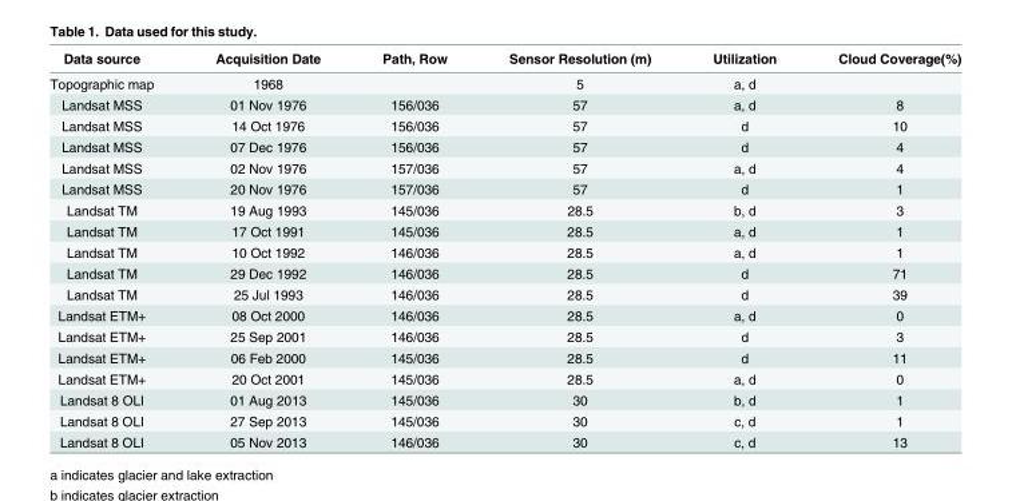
<table><thead><tr><td>Data source</td><td>Acquisition Date</td><td>Path, Row</td><td>Sensor Resolution (m)</td><td>Utilization</td><td>Cloud Coverage(%)</td></tr></thead><tbody><tr><td>Topographic map</td><td>1968</td><td></td><td>5</td><td>a, d</td><td></td></tr><tr><td>Landsat MSS</td><td>01 Nov 1976</td><td>156/036</td><td>57</td><td>a, d</td><td>8</td></tr><tr><td>Landsat MSS</td><td>14 Oct 1976</td><td>156/036</td><td>57</td><td>d</td><td>10</td></tr><tr><td>Landsat MSS</td><td>07 Dec 1976</td><td>156/036</td><td>57</td><td>d</td><td>4</td></tr><tr><td>Landsat MSS</td><td>02 Nov 1976</td><td>157/036</td><td>57</td><td>a, d</td><td>4</td></tr><tr><td>Landsat MSS</td><td>20 Nov 1976</td><td>157/036</td><td>57</td><td>d</td><td>1</td></tr><tr><td>Landsat TM</td><td>19 Aug 1993</td><td>145/036</td><td>28.5</td><td>b, d</td><td>3</td></tr><tr><td>Landsat TM</td><td>17 Oct 1991</td><td>145/036</td><td>28.5</td><td>a, d</td><td>1</td></tr><tr><td>Landsat TM</td><td>10 Oct 1992</td><td>146/036</td><td>28.5</td><td>a, d</td><td>1</td></tr><tr><td>Landsat TM</td><td>29 Dec 1992</td><td>146/036</td><td>28.5</td><td>d</td><td>71</td></tr><tr><td>Landsat TM</td><td>25 Jul 1993</td><td>146/036</td><td>28.5</td><td>d</td><td>39</td></tr><tr><td>Landsat ETM+</td><td>08 Oct 2000</td><td>146/036</td><td>28.5</td><td>a, d</td><td>0</td></tr><tr><td>Landsat ETM+</td><td>25 Sep 2001</td><td>146/036</td><td>28.5</td><td>d</td><td>3</td></tr><tr><td>Landsat ETM+</td><td>06 Feb 2000</td><td>145/036</td><td>28.5</td><td>d</td><td>11</td></tr><tr><td>Landsat ETM+</td><td>20 Oct 2001</td><td>145/036</td><td>28.5</td><td>a, d</td><td>0</td></tr><tr><td>Landsat 8 OLI</td><td>01 Aug 2013</td><td>145/036</td><td>30</td><td>b, d</td><td>1</td></tr><tr><td>Landsat 8 OLI</td><td>27 Sep 2013</td><td>145/036</td><td>30</td><td>c, d</td><td>1</td></tr><tr><td>Landsat 8 OLI</td><td>05 Nov 2013</td><td>146/036</td><td>30</td><td>c, d</td><td>13</td></tr></tbody></table>